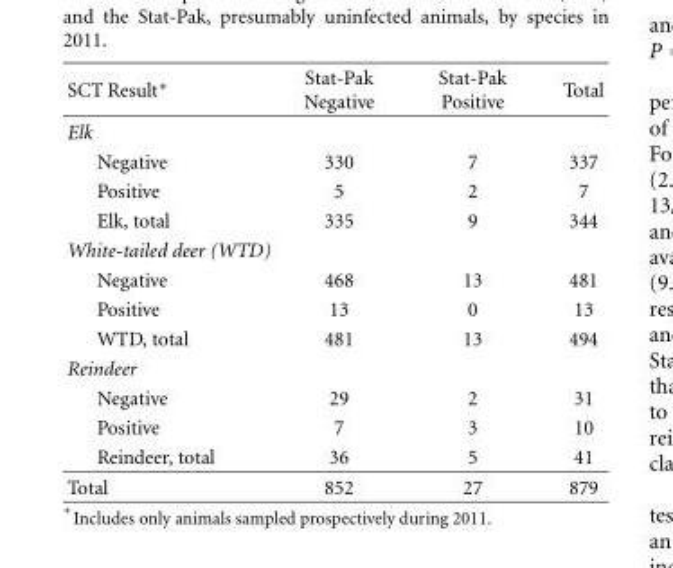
<table><thead><tr><td>SCT Result∗</td><td>Stat-Pak Negative</td><td>Stat-Pak Positive</td><td>Total</td></tr></thead><tbody><tr><td colspan="4">Elk</td></tr><tr><td>Negative</td><td>330</td><td>7</td><td>337</td></tr><tr><td>Positive</td><td>5</td><td>2</td><td>7</td></tr><tr><td>Elk, total</td><td>335</td><td>9</td><td>344</td></tr><tr><td colspan="4">White-tailed deer (WTD)</td></tr><tr><td>Negative</td><td>468</td><td>13</td><td>481</td></tr><tr><td>Positive</td><td>13</td><td>0</td><td>13</td></tr><tr><td>WTD, total</td><td>481</td><td>13</td><td>494</td></tr><tr><td colspan="4">Reindeer</td></tr><tr><td>Negative</td><td>29</td><td>2</td><td>31</td></tr><tr><td>Positive</td><td>7</td><td>3</td><td>10</td></tr><tr><td>Reindeer, total</td><td>36</td><td>5</td><td>41</td></tr><tr><td>Total</td><td>852</td><td>27</td><td>879</td></tr></tbody></table>